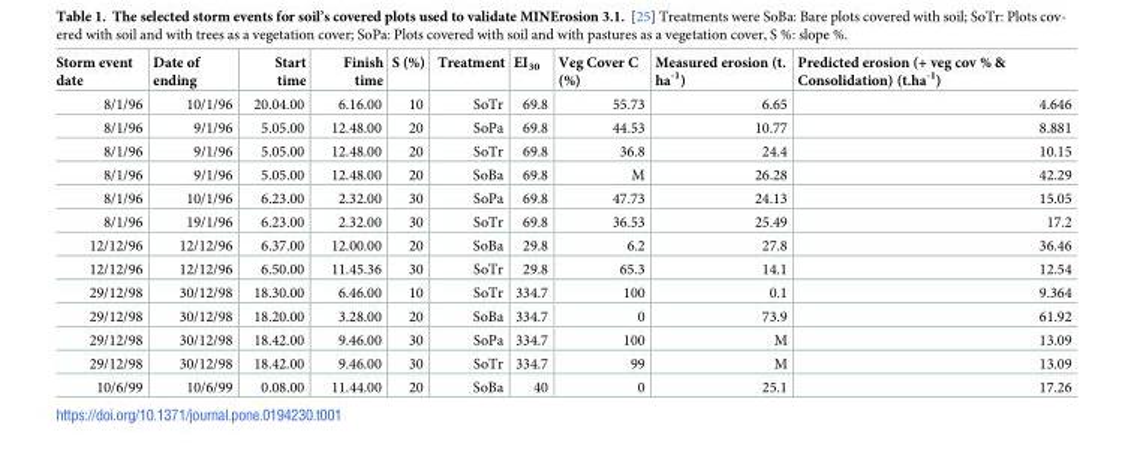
<table><thead><tr><td>Storm event date</td><td>Date of ending</td><td>Start time</td><td>Finish time</td><td>S (%)</td><td>Treatment</td><td>EI<sub>30</sub></td><td>Veg Cover C (%)</td><td>Measured erosion (t. ha<sup>-1</sup>)</td><td>Predicted erosion (+ veg cov % &amp; Consolidation) (t.ha<sup>-1</sup>)</td></tr></thead><tbody><tr><td>8/1/96</td><td>10/1/96</td><td>20.04.00</td><td>6.16.00</td><td>10</td><td>SoTr</td><td>69.8</td><td>55.73</td><td>6.65</td><td>4.646</td></tr><tr><td>8/1/96</td><td>9/1/96</td><td>5.05.00</td><td>12.48.00</td><td>20</td><td>SoPa</td><td>69.8</td><td>44.53</td><td>10.77</td><td>8.881</td></tr><tr><td>8/1/96</td><td>9/1/96</td><td>5.05.00</td><td>12.48.00</td><td>20</td><td>SoTr</td><td>69.8</td><td>36.8</td><td>24.4</td><td>10.15</td></tr><tr><td>8/1/96</td><td>9/1/96</td><td>5.05.00</td><td>12.48.00</td><td>20</td><td>SoBa</td><td>69.8</td><td>M</td><td>26.28</td><td>42.29</td></tr><tr><td>8/1/96</td><td>10/1/96</td><td>6.23.00</td><td>2.32.00</td><td>30</td><td>SoPa</td><td>69.8</td><td>47.73</td><td>24.13</td><td>15.05</td></tr><tr><td>8/1/96</td><td>19/1/96</td><td>6.23.00</td><td>2.32.00</td><td>30</td><td>SoTr</td><td>69.8</td><td>36.53</td><td>25.49</td><td>17.2</td></tr><tr><td>12/12/96</td><td>12/12/96</td><td>6.37.00</td><td>12.00.00</td><td>20</td><td>SoBa</td><td>29.8</td><td>6.2</td><td>27.8</td><td>36.46</td></tr><tr><td>12/12/96</td><td>12/12/96</td><td>6.50.00</td><td>11.45.36</td><td>30</td><td>SoTr</td><td>29.8</td><td>65.3</td><td>14.1</td><td>12.54</td></tr><tr><td>29/12/98</td><td>30/12/98</td><td>18.30.00</td><td>6.46.00</td><td>10</td><td>SoTr</td><td>334.7</td><td>100</td><td>0.1</td><td>9.364</td></tr><tr><td>29/12/98</td><td>30/12/98</td><td>18.20.00</td><td>3.28.00</td><td>20</td><td>SoBa</td><td>334.7</td><td>0</td><td>73.9</td><td>61.92</td></tr><tr><td>29/12/98</td><td>30/12/98</td><td>18.42.00</td><td>9.46.00</td><td>30</td><td>SoPa</td><td>334.7</td><td>100</td><td>M</td><td>13.09</td></tr><tr><td>29/12/98</td><td>30/12/98</td><td>18.42.00</td><td>9.46.00</td><td>30</td><td>SoTr</td><td>334.7</td><td>99</td><td>M</td><td>13.09</td></tr><tr><td>10/6/99</td><td>10/6/99</td><td>0.08.00</td><td>11.44.00</td><td>20</td><td>SoBa</td><td>40</td><td>0</td><td>25.1</td><td>17.26</td></tr></tbody></table>